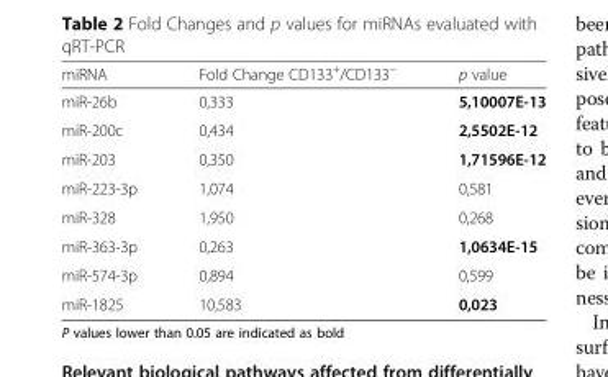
<table><thead><tr><td>miRNA</td><td>Fold Change CD133<sup>+</sup>/CD133<sup>−</sup></td><td>p value</td></tr></thead><tbody><tr><td>miR-26b</td><td>0,333</td><td>5,10007E-13</td></tr><tr><td>miR-200c</td><td>0,434</td><td>2,5502E-12</td></tr><tr><td>miR-203</td><td>0,350</td><td>1,71596E-12</td></tr><tr><td>miR-223-3p</td><td>1,074</td><td>0,581</td></tr><tr><td>miR-328</td><td>1,950</td><td>0,268</td></tr><tr><td>miR-363-3p</td><td>0,263</td><td>1,0634E-15</td></tr><tr><td>miR-574-3p</td><td>0,894</td><td>0,599</td></tr><tr><td>miR-1825</td><td>10,583</td><td>0,023</td></tr></tbody></table>